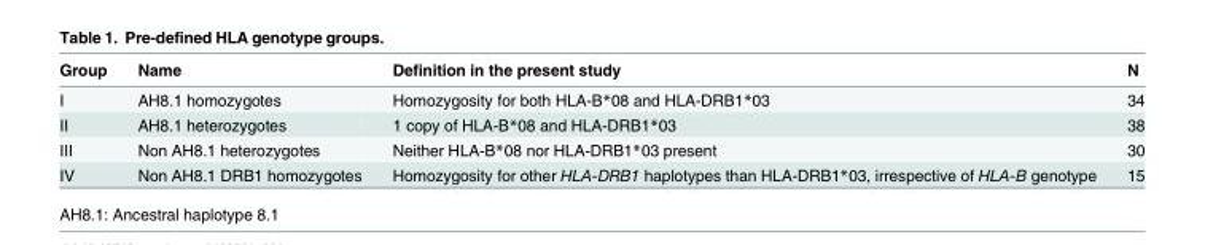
<table><thead><tr><td>Group</td><td>Name</td><td>Definition in the present study</td><td>N</td></tr></thead><tbody><tr><td>I</td><td>AH8.1 homozygotes</td><td>Homozygosity for both HLA-B*08 and HLA-DRB1*03</td><td>34</td></tr><tr><td>II</td><td>AH8.1 heterozygotes</td><td>1 copy of HLA-B*08 and HLA-DRB1*03</td><td>38</td></tr><tr><td>III</td><td>Non AH8.1 heterozygotes</td><td>Neither HLA-B*08 nor HLA-DRB1*03 present</td><td>30</td></tr><tr><td>IV</td><td>Non AH8.1 DRB1 homozygotes</td><td>Homozygosity for other HLA-DRB1 haplotypes than HLA-DRB1*03, irrespective of HLA-B genotype</td><td>15</td></tr></tbody></table>